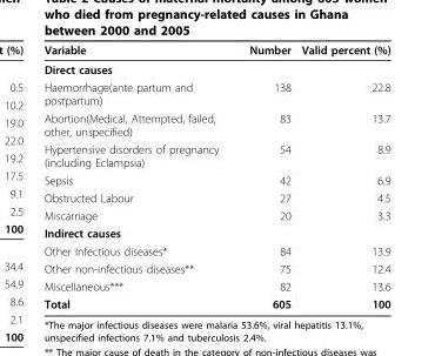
<table><thead><tr><td>Variable</td><td>Number</td><td>Valid percent (%)</td></tr></thead><tbody><tr><td colspan="3">Direct causes</td></tr><tr><td>Haemorrhage(ante partum and postpartum)</td><td>138</td><td>22.8</td></tr><tr><td>Abortion(Medical, Attempted, failed, other, unspecified)</td><td>83</td><td>13.7</td></tr><tr><td>Hypertensive disorders of pregnancy (including Eclampsia)</td><td>54</td><td>8.9</td></tr><tr><td>Sepsis</td><td>42</td><td>6.9</td></tr><tr><td>Obstructed Labour</td><td>27</td><td>4.5</td></tr><tr><td>Miscarriage</td><td>20</td><td>3.3</td></tr><tr><td colspan="3">Indirect causes</td></tr><tr><td>Other Infectious diseases*</td><td>84</td><td>13.9</td></tr><tr><td>Other non-infectious diseases**</td><td>75</td><td>12.4</td></tr><tr><td>Miscellaneous***</td><td>82</td><td>13.6</td></tr><tr><td>Total</td><td>605</td><td>100</td></tr></tbody></table>